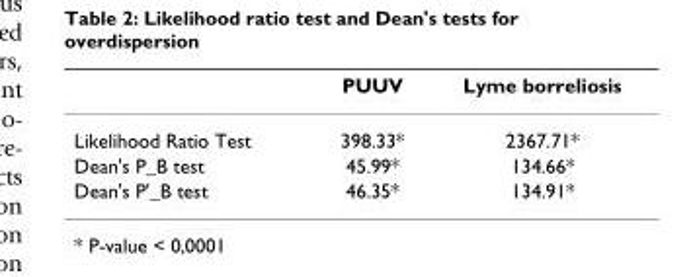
<table><thead><tr><td></td><td>PUUV</td><td>Lyme borreliosis</td></tr></thead><tbody><tr><td>Likelihood Ratio Test</td><td>398.33*</td><td>2367.71*</td></tr><tr><td>Dean&#x27;s P_B test</td><td>45.99*</td><td>134.66*</td></tr><tr><td>Dean&#x27;s P&#x27;_B test</td><td>46.35*</td><td>134.91*</td></tr></tbody></table>